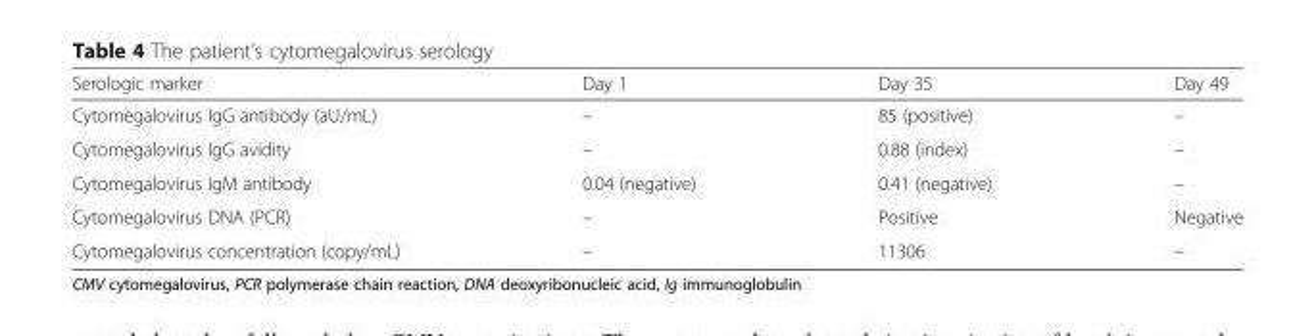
<table><thead><tr><td>Serologic marker</td><td>Day 1</td><td>Day 35</td><td>Day 49</td></tr></thead><tbody><tr><td>Cytomegalovirus IgG antibody (aU/mL)</td><td>–</td><td>85 (positive)</td><td>–</td></tr><tr><td>Cytomegalovirus IgG avidity</td><td>–</td><td>0.88 (index)</td><td>–</td></tr><tr><td>Cytomegalovirus IgM antibody</td><td>0.04 (negative)</td><td>0.41 (negative)</td><td>–</td></tr><tr><td>Cytomegalovirus DNA (PCR)</td><td>–</td><td>Positive</td><td>Negative</td></tr><tr><td>Cytomegalovirus concentration (copy/mL)</td><td>–</td><td>11306</td><td>–</td></tr></tbody></table>